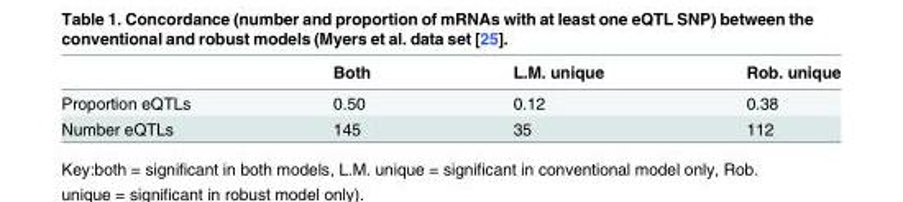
<table><thead><tr><td></td><td>Both</td><td>L.M. unique</td><td>Rob. unique</td></tr></thead><tbody><tr><td>Proportion eQTLs</td><td>0.50</td><td>0.12</td><td>0.38</td></tr><tr><td>Number eQTLs</td><td>145</td><td>35</td><td>112</td></tr></tbody></table>